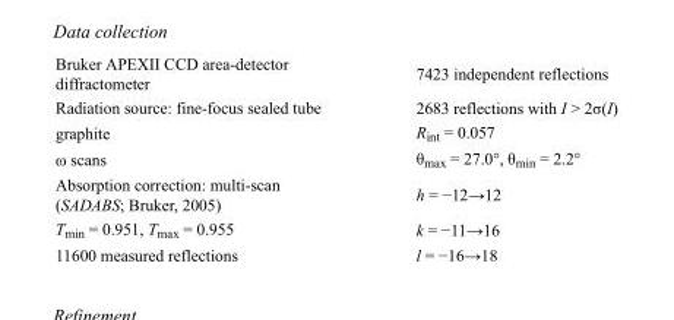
<table><tbody><tr><td>Bruker APEXII CCD area-detector diffractometer</td><td>7423 independent reflections</td></tr><tr><td>Radiation source: fine-focus sealed tube</td><td>2683 reflections with I &gt; 2σ(I)</td></tr><tr><td>graphite</td><td>R<sub>int</sub> = 0.057</td></tr><tr><td>ω scans</td><td>θ<sub>max</sub> = 27.0°, θ<sub>min</sub> = 2.2°</td></tr><tr><td>Absorption correction: multi-scan (SADABS; Bruker, 2005)</td><td>h = −12→12</td></tr><tr><td>T<sub>min</sub> = 0.951, T<sub>max</sub> = 0.955</td><td>k = −11→16</td></tr><tr><td>11600 measured reflections</td><td>l = −16→18</td></tr></tbody></table>